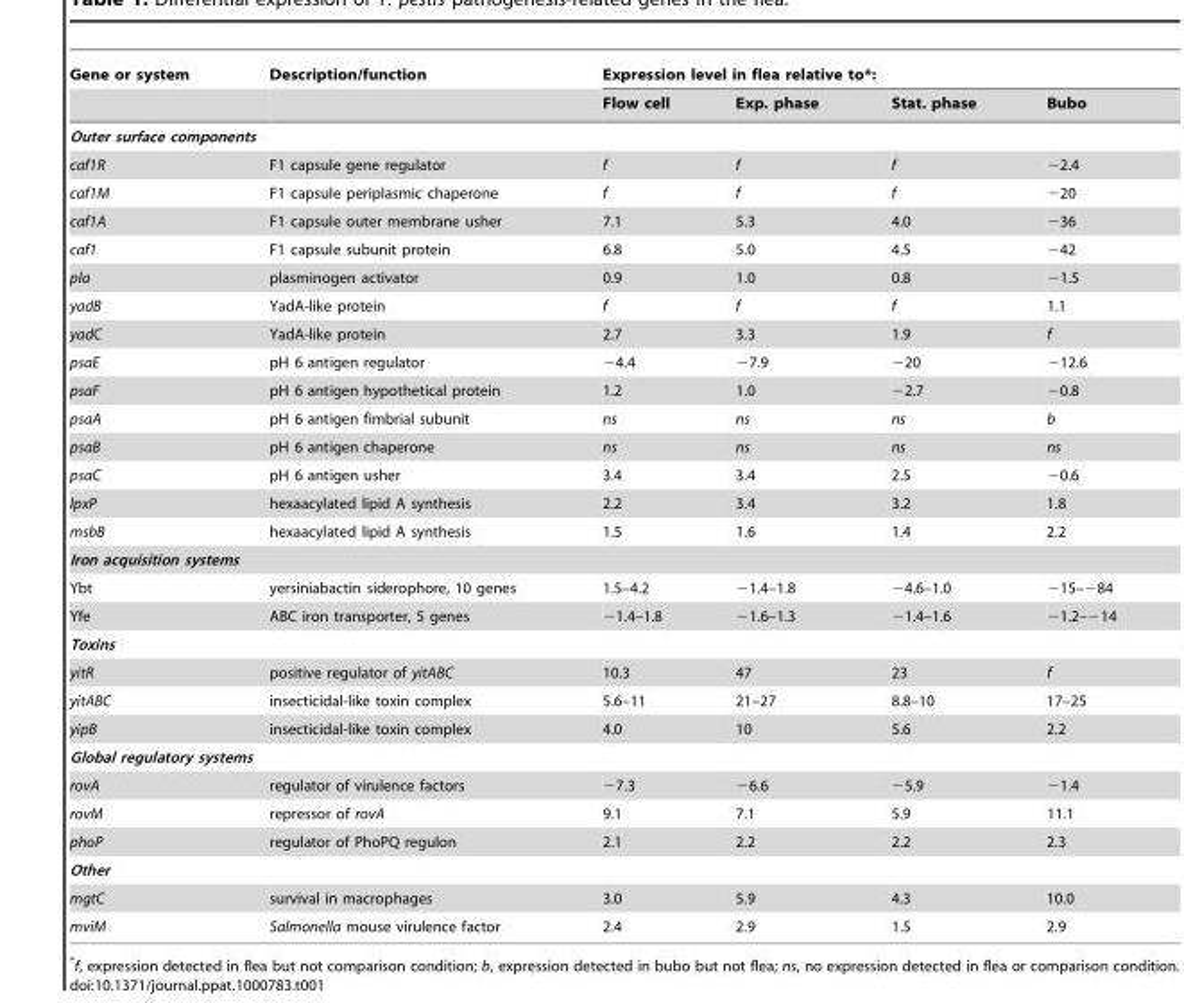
<table><thead><tr><td rowspan="2">Gene or system</td><td rowspan="2">Description/function</td><td colspan="4">Expression level in flea relative to*:</td></tr><tr><td>Flow cell</td><td>Exp. phase</td><td>Stat. phase</td><td>Bubo</td></tr></thead><tbody><tr><td colspan="6">Outer surface components</td></tr><tr><td>caf1R</td><td>F1 capsule gene regulator</td><td>f</td><td>f</td><td>f</td><td>−2.4</td></tr><tr><td>caf1M</td><td>F1 capsule periplasmic chaperone</td><td>f</td><td>f</td><td>f</td><td>−20</td></tr><tr><td>caf1A</td><td>F1 capsule outer membrane usher</td><td>7.1</td><td>5.3</td><td>4.0</td><td>−36</td></tr><tr><td>caf1</td><td>F1 capsule subunit protein</td><td>6.8</td><td>5.0</td><td>4.5</td><td>−42</td></tr><tr><td>pla</td><td>plasminogen activator</td><td>0.9</td><td>1.0</td><td>0.8</td><td>−1.5</td></tr><tr><td>yadB</td><td>YadA-like protein</td><td>f</td><td>f</td><td>f</td><td>1.1</td></tr><tr><td>yadC</td><td>YadA-like protein</td><td>2.7</td><td>3.3</td><td>1.9</td><td>f</td></tr><tr><td>psaE</td><td>pH 6 antigen regulator</td><td>−4.4</td><td>−7.9</td><td>−20</td><td>−12.6</td></tr><tr><td>psaF</td><td>pH 6 antigen hypothetical protein</td><td>1.2</td><td>1.0</td><td>−2.7</td><td>−0.8</td></tr><tr><td>psaA</td><td>pH 6 antigen fimbrial subunit</td><td>ns</td><td>ns</td><td>ns</td><td>b</td></tr><tr><td>psaB</td><td>pH 6 antigen chaperone</td><td>ns</td><td>ns</td><td>ns</td><td>ns</td></tr><tr><td>psaC</td><td>pH 6 antigen usher</td><td>3.4</td><td>3.4</td><td>2.5</td><td>−0.6</td></tr><tr><td>lpxP</td><td>hexaacylated lipid A synthesis</td><td>2.2</td><td>3.4</td><td>3.2</td><td>1.8</td></tr><tr><td>msbB</td><td>hexaacylated lipid A synthesis</td><td>1.5</td><td>1.6</td><td>1.4</td><td>2.2</td></tr><tr><td colspan="6">Iron acquisition systems</td></tr><tr><td>Ybt</td><td>yersiniabactin siderophore, 10 genes</td><td>1.5–4.2</td><td>−1.4–1.8</td><td>−4.6–1.0</td><td>−15–−84</td></tr><tr><td>Yfe</td><td>ABC iron transporter, 5 genes</td><td>−1.4–1.8</td><td>−1.6–1.3</td><td>−1.4–1.6</td><td>−1.2–−14</td></tr><tr><td colspan="6">Toxins</td></tr><tr><td>yitR</td><td>positive regulator of yitABC</td><td>10.3</td><td>47</td><td>23</td><td>f</td></tr><tr><td>yitABC</td><td>insecticidal-like toxin complex</td><td>5.6–11</td><td>21–27</td><td>8.8–10</td><td>17–25</td></tr><tr><td>yipB</td><td>insecticidal-like toxin complex</td><td>4.0</td><td>10</td><td>5.6</td><td>2.2</td></tr><tr><td colspan="6">Global regulatory systems</td></tr><tr><td>rovA</td><td>regulator of virulence factors</td><td>−7.3</td><td>−6.6</td><td>−5.9</td><td>−1.4</td></tr><tr><td>rovM</td><td>repressor of rovA</td><td>9.1</td><td>7.1</td><td>5.9</td><td>11.1</td></tr><tr><td>phoP</td><td>regulator of PhoPQ regulon</td><td>2.1</td><td>2.2</td><td>2.2</td><td>2.3</td></tr><tr><td colspan="6">Other</td></tr><tr><td>mgtC</td><td>survival in macrophages</td><td>3.0</td><td>5.9</td><td>4.3</td><td>10.0</td></tr><tr><td>mviM</td><td>Salmonella mouse virulence factor</td><td>2.4</td><td>2.9</td><td>1.5</td><td>2.9</td></tr></tbody></table>